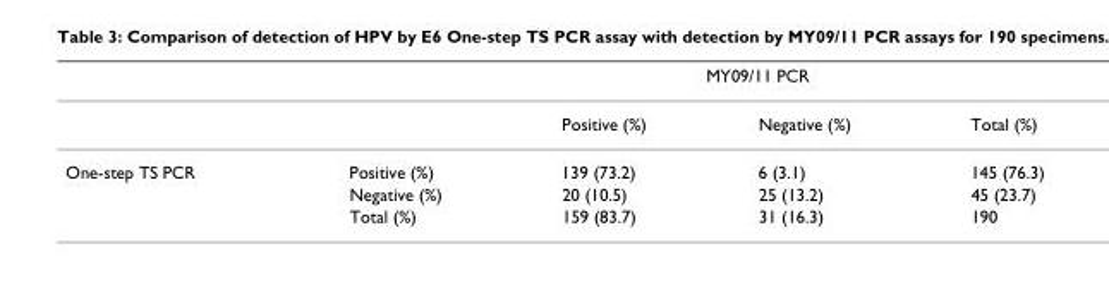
<table><thead><tr><td rowspan="2"></td><td rowspan="2"></td><td colspan="2">MY09/11 PCR</td><td rowspan="2">Total (%)</td></tr><tr><td>Positive (%)</td><td>Negative (%)</td></tr></thead><tbody><tr><td rowspan="3">One-step TS PCR</td><td>Positive (%)</td><td>139 (73.2)</td><td>6 (3.1)</td><td>145 (76.3)</td></tr><tr><td>Negative (%)</td><td>20 (10.5)</td><td>25 (13.2)</td><td>45 (23.7)</td></tr><tr><td>Total (%)</td><td>159 (83.7)</td><td>31 (16.3)</td><td>190</td></tr></tbody></table>